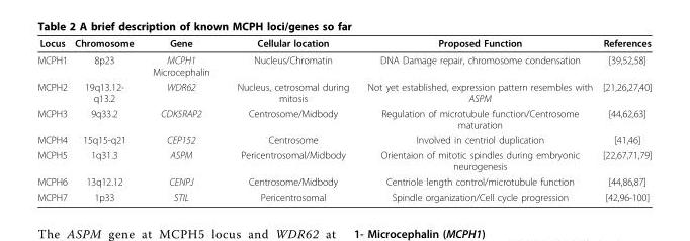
<table><thead><tr><td>Locus</td><td>Chromosome</td><td>Gene</td><td>Cellular location</td><td>Proposed Function</td><td>References</td></tr></thead><tbody><tr><td>MCPH1</td><td>8p23</td><td>MCPH1 Microcephalin</td><td>Nucleus/Chromatin</td><td>DNA Damage repair, chromosome condensation</td><td>[39,52,58]</td></tr><tr><td>MCPH2</td><td>19q13.12- q13.2</td><td>WDR62</td><td>Nucleus, cetrosomal during mitosis</td><td>Not yet established, expression pattern resembles with ASPM</td><td>[21,26,27,40]</td></tr><tr><td>MCPH3</td><td>9q33.2</td><td>CDK5RAP2</td><td>Centrosome/Midbody</td><td>Regulation of microtubule function/Centrosome maturation</td><td>[44,62,63]</td></tr><tr><td>MCPH4</td><td>15q15-q21</td><td>CEP152</td><td>Centrosome</td><td>Involved in centriol duplication</td><td>[41,46]</td></tr><tr><td>MCPH5</td><td>1q31.3</td><td>ASPM</td><td>Pericentrosomal/Midbody</td><td>Orientaion of mitotic spindles during embryonic neurogenesis</td><td>[22,67,71,79]</td></tr><tr><td>MCPH6</td><td>13q12.12</td><td>CENPJ</td><td>Centrosome/Midbody</td><td>Centriole length control/microtubule function</td><td>[44,86,87]</td></tr><tr><td>MCPH7</td><td>1p33</td><td>STIL</td><td>Pericentrosomal</td><td>Spindle organization/Cell cycle progression</td><td>[42,96-100]</td></tr></tbody></table>